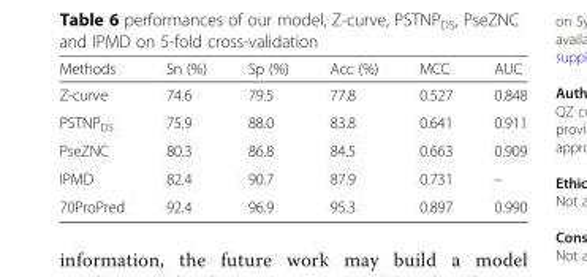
<table><thead><tr><td>Methods</td><td>Sn (%)</td><td>Sp (%)</td><td>Acc (%)</td><td>MCC</td><td>AUC</td></tr></thead><tbody><tr><td>Z-curve</td><td>74.6</td><td>79.5</td><td>77.8</td><td>0.527</td><td>0.848</td></tr><tr><td>PSTNP<sub>DS</sub></td><td>75.9</td><td>88.0</td><td>83.8</td><td>0.641</td><td>0.911</td></tr><tr><td>PseZNC</td><td>80.3</td><td>86.8</td><td>84.5</td><td>0.663</td><td>0.909</td></tr><tr><td>IPMD</td><td>82.4</td><td>90.7</td><td>87.9</td><td>0.731</td><td>–</td></tr><tr><td>70ProPred</td><td>92.4</td><td>96.9</td><td>95.3</td><td>0.897</td><td>0.990</td></tr></tbody></table>